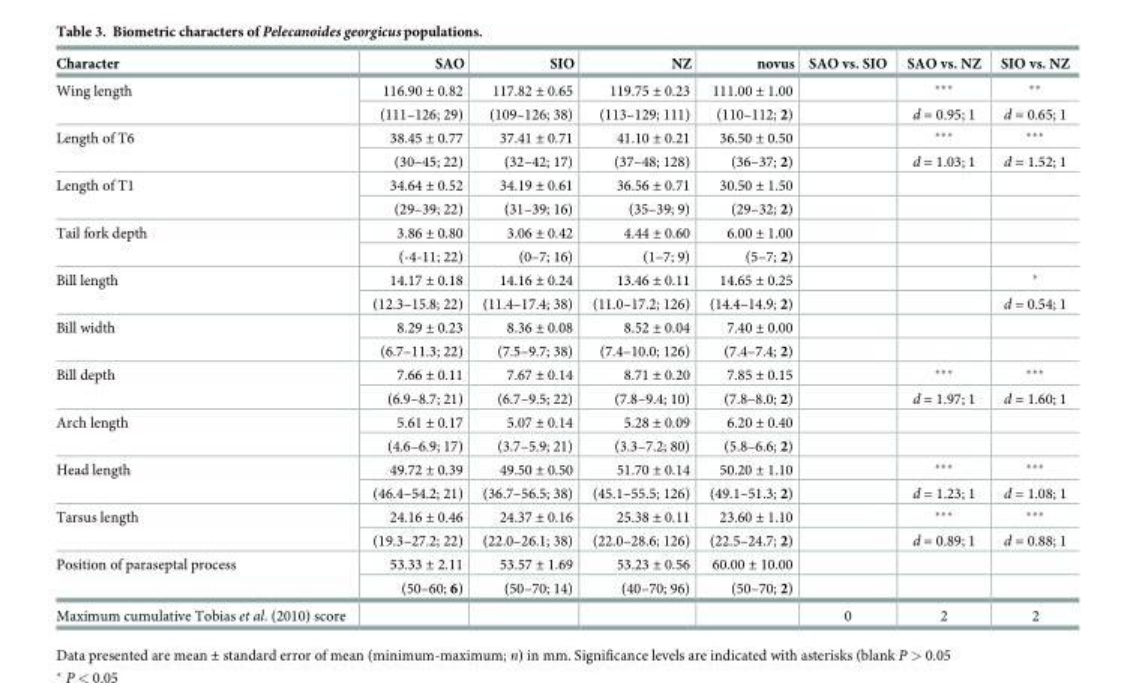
<table><thead><tr><td>Character</td><td>SAO</td><td>SIO</td><td>NZ</td><td>novus</td><td>SAO vs. SIO</td><td>SAO vs. NZ</td><td>SIO vs. NZ</td></tr></thead><tbody><tr><td rowspan="2">Wing length</td><td>116.90 ± 0.82</td><td>117.82 ± 0.65</td><td>119.75 ± 0.23</td><td>111.00 ± 1.00</td><td></td><td>***</td><td>**</td></tr><tr><td>(111–126; 29)</td><td>(109–126; 38)</td><td>(113–129; 111)</td><td>(110–112; 2)</td><td></td><td>d = 0.95; 1</td><td>d = 0.65; 1</td></tr><tr><td rowspan="2">Length of T6</td><td>38.45 ± 0.77</td><td>37.41 ± 0.71</td><td>41.10 ± 0.21</td><td>36.50 ± 0.50</td><td></td><td>***</td><td>***</td></tr><tr><td>(30–45; 22)</td><td>(32–42; 17)</td><td>(37–48; 128)</td><td>(36–37; 2)</td><td></td><td>d = 1.03; 1</td><td>d = 1.52; 1</td></tr><tr><td rowspan="2">Length of T1</td><td>34.64 ± 0.52</td><td>34.19 ± 0.61</td><td>36.56 ± 0.71</td><td>30.50 ± 1.50</td><td></td><td></td><td></td></tr><tr><td>(29–39; 22)</td><td>(31–39; 16)</td><td>(35–39; 9)</td><td>(29–32; 2)</td><td></td><td></td><td></td></tr><tr><td rowspan="2">Tail fork depth</td><td>3.86 ± 0.80</td><td>3.06 ± 0.42</td><td>4.44 ± 0.60</td><td>6.00 ± 1.00</td><td></td><td></td><td></td></tr><tr><td>(-4-11; 22)</td><td>(0–7; 16)</td><td>(1–7; 9)</td><td>(5–7; 2)</td><td></td><td></td><td></td></tr><tr><td rowspan="2">Bill length</td><td>14.17 ± 0.18</td><td>14.16 ± 0.24</td><td>13.46 ± 0.11</td><td>14.65 ± 0.25</td><td></td><td></td><td>*</td></tr><tr><td>(12.3–15.8; 22)</td><td>(11.4–17.4; 38)</td><td>(11.0–17.2; 126)</td><td>(14.4–14.9; 2)</td><td></td><td></td><td>d = 0.54; 1</td></tr><tr><td rowspan="2">Bill width</td><td>8.29 ± 0.23</td><td>8.36 ± 0.08</td><td>8.52 ± 0.04</td><td>7.40 ± 0.00</td><td></td><td></td><td></td></tr><tr><td>(6.7–11.3; 22)</td><td>(7.5–9.7; 38)</td><td>(7.4–10.0; 126)</td><td>(7.4–7.4; 2)</td><td></td><td></td><td></td></tr><tr><td rowspan="2">Bill depth</td><td>7.66 ± 0.11</td><td>7.67 ± 0.14</td><td>8.71 ± 0.20</td><td>7.85 ± 0.15</td><td></td><td>***</td><td>***</td></tr><tr><td>(6.9–8.7; 21)</td><td>(6.7–9.5; 22)</td><td>(7.8–9.4; 10)</td><td>(7.8–8.0; 2)</td><td></td><td>d = 1.97; 1</td><td>d = 1.60; 1</td></tr><tr><td rowspan="2">Arch length</td><td>5.61 ± 0.17</td><td>5.07 ± 0.14</td><td>5.28 ± 0.09</td><td>6.20 ± 0.40</td><td></td><td></td><td></td></tr><tr><td>(4.6–6.9; 17)</td><td>(3.7–5.9; 21)</td><td>(3.3–7.2; 80)</td><td>(5.8–6.6; 2)</td><td></td><td></td><td></td></tr><tr><td rowspan="2">Head length</td><td>49.72 ± 0.39</td><td>49.50 ± 0.50</td><td>51.70 ± 0.14</td><td>50.20 ± 1.10</td><td></td><td>***</td><td>***</td></tr><tr><td>(46.4–54.2; 21)</td><td>(36.7–56.5; 38)</td><td>(45.1–55.5; 126)</td><td>(49.1–51.3; 2)</td><td></td><td>d = 1.23; 1</td><td>d = 1.08; 1</td></tr><tr><td rowspan="2">Tarsus length</td><td>24.16 ± 0.46</td><td>24.37 ± 0.16</td><td>25.38 ± 0.11</td><td>23.60 ± 1.10</td><td></td><td>***</td><td>***</td></tr><tr><td>(19.3–27.2; 22)</td><td>(22.0–26.1; 38)</td><td>(22.0–28.6; 126)</td><td>(22.5–24.7; 2)</td><td></td><td>d = 0.89; 1</td><td>d = 0.88; 1</td></tr><tr><td rowspan="2">Position of paraseptal process</td><td>53.33 ± 2.11</td><td>53.57 ± 1.69</td><td>53.23 ± 0.56</td><td>60.00 ± 10.00</td><td></td><td></td><td></td></tr><tr><td>(50–60; 6)</td><td>(50–70; 14)</td><td>(40–70; 96)</td><td>(50–70; 2)</td><td></td><td></td><td></td></tr><tr><td>Maximum cumulative Tobias et al. (2010) score</td><td></td><td></td><td></td><td></td><td>0</td><td>2</td><td>2</td></tr></tbody></table>